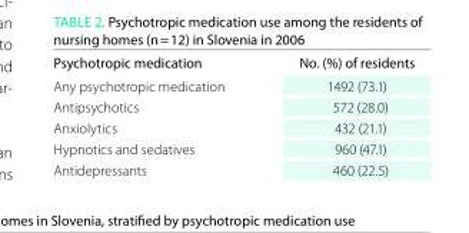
<table><thead><tr><td>Psychotropic medication</td><td>no. (%) of residents</td></tr></thead><tbody><tr><td>Any psychotropic medication</td><td>1492 (73.1)</td></tr><tr><td>Antipsychotics</td><td>572 (28.0)</td></tr><tr><td>Anxiolytics</td><td>432 (21.1)</td></tr><tr><td>Hypnotics and sedatives</td><td>960 (47.1)</td></tr><tr><td>Antidepressants</td><td>460 (22.5)</td></tr></tbody></table>